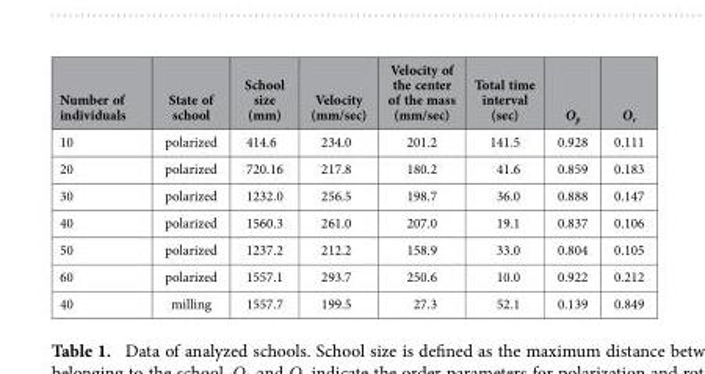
<table><thead><tr><td>Number of individuals</td><td>State of school</td><td>School size (mm)</td><td>Velocity (mm/sec)</td><td>Velocity of the center of the mass (mm/sec)</td><td>Total time interval (sec)</td><td>O<sub>p</sub></td><td>O<sub>r</sub></td></tr></thead><tbody><tr><td>10</td><td>polarized</td><td>414.6</td><td>234.0</td><td>201.2</td><td>141.5</td><td>0.928</td><td>0.111</td></tr><tr><td>20</td><td>polarized</td><td>720.16</td><td>217.8</td><td>180.2</td><td>41.6</td><td>0.859</td><td>0.183</td></tr><tr><td>30</td><td>polarized</td><td>1232.0</td><td>256.5</td><td>198.7</td><td>36.0</td><td>0.888</td><td>0.147</td></tr><tr><td>40</td><td>polarized</td><td>1560.3</td><td>261.0</td><td>207.0</td><td>19.1</td><td>0.837</td><td>0.106</td></tr><tr><td>50</td><td>polarized</td><td>1237.2</td><td>212.2</td><td>158.9</td><td>33.0</td><td>0.804</td><td>0.105</td></tr><tr><td>60</td><td>polarized</td><td>1557.1</td><td>293.7</td><td>250.6</td><td>10.0</td><td>0.922</td><td>0.212</td></tr><tr><td>40</td><td>milling</td><td>1557.7</td><td>199.5</td><td>27.3</td><td>52.1</td><td>0.139</td><td>0.849</td></tr></tbody></table>